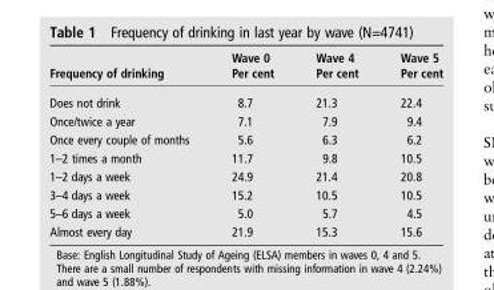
<table><thead><tr><td rowspan="2">Frequency of drinking</td><td rowspan="2">Wave 0 Per cent</td><td rowspan="2">Wave 4 Per cent</td><td rowspan="2">Wave 5 Per cent</td></tr><tr></tr></thead><tbody><tr><td>Does not drink</td><td>8.7</td><td>21.3</td><td>22.4</td></tr><tr><td>Once/twice a year</td><td>7.1</td><td>7.9</td><td>9.4</td></tr><tr><td>Once every couple of months</td><td>5.6</td><td>6.3</td><td>6.2</td></tr><tr><td>1–2 times a month</td><td>11.7</td><td>9.8</td><td>10.5</td></tr><tr><td>1–2 days a week</td><td>24.9</td><td>21.4</td><td>20.8</td></tr><tr><td>3–4 days a week</td><td>15.2</td><td>10.5</td><td>10.5</td></tr><tr><td>5–6 days a week</td><td>5.0</td><td>5.7</td><td>4.5</td></tr><tr><td>Almost every day</td><td>21.9</td><td>15.3</td><td>15.6</td></tr></tbody></table>